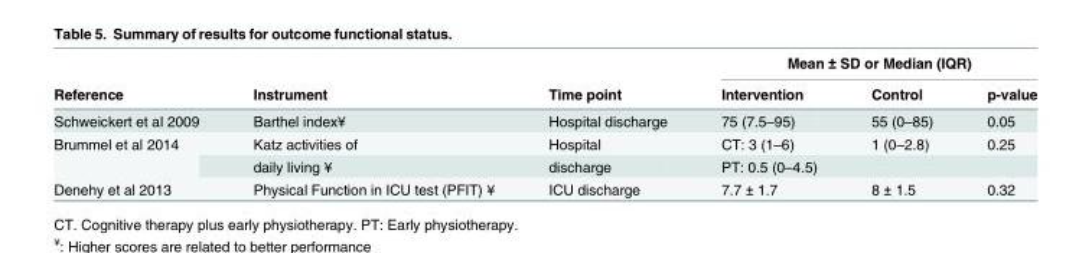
<table><thead><tr><td rowspan="2">Reference</td><td rowspan="2">Instrument</td><td rowspan="2">Time point</td><td colspan="3">Mean ± SD or Median (IQR)</td></tr><tr><td>Intervention</td><td>Control</td><td>p-value</td></tr></thead><tbody><tr><td>Schweickert et al 2009</td><td>Barthel index¥</td><td>Hospital discharge</td><td>75 (7.5–95)</td><td>55 (0–85)</td><td>0.05</td></tr><tr><td rowspan="2">Brummel et al 2014</td><td>Katz activities of</td><td>Hospital</td><td>CT: 3 (1–6)</td><td>1 (0–2.8)</td><td>0.25</td></tr><tr><td>daily living ¥</td><td>discharge</td><td>PT: 0.5 (0–4.5)</td><td></td><td></td></tr><tr><td>Denehy et al 2013</td><td>Physical Function in ICU test (PFIT) ¥</td><td>ICU discharge</td><td>7.7 ± 1.7</td><td>8 ± 1.5</td><td>0.32</td></tr></tbody></table>